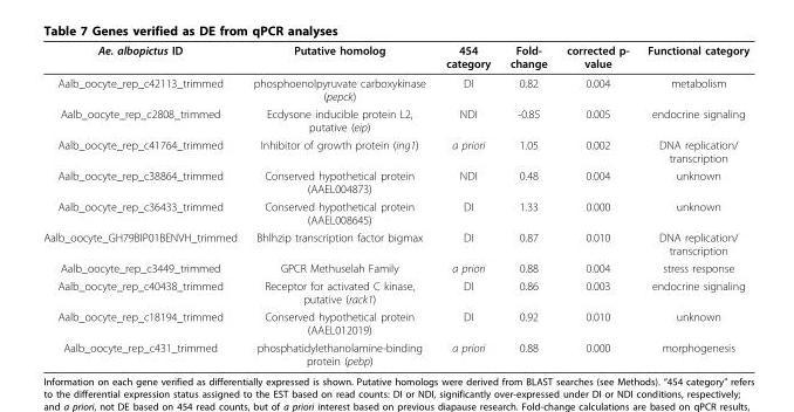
<table><thead><tr><td>Ae. albopictus ID</td><td>Putative homolog</td><td>454 category</td><td>Fold- change</td><td>corrected p- value</td><td>Functional category</td></tr></thead><tbody><tr><td>Aalb_oocyte_rep_c42113_trimmed</td><td>phosphoenolpyruvate carboxykinase (pepck)</td><td>DI</td><td>0.82</td><td>0.004</td><td>metabolism</td></tr><tr><td>Aalb_oocyte_rep_c2808_trimmed</td><td>Ecdysone inducible protein L2, putative (eip)</td><td>NDI</td><td>-0.85</td><td>0.005</td><td>endocrine signaling</td></tr><tr><td>Aalb_oocyte_rep_c41764_trimmed</td><td>Inhibitor of growth protein (ing1)</td><td>a priori</td><td>1.05</td><td>0.002</td><td>DNA replication/ transcription</td></tr><tr><td>Aalb_oocyte_rep_c38864_trimmed</td><td>Conserved hypothetical protein (AAEL004873)</td><td>NDI</td><td>0.48</td><td>0.004</td><td>unknown</td></tr><tr><td>Aalb_oocyte_rep_c36433_trimmed</td><td>Conserved hypothetical protein (AAEL008645)</td><td>DI</td><td>1.33</td><td>0.000</td><td>unknown</td></tr><tr><td>Aalb_oocyte_GH79BIP01BENVH_trimmed</td><td>Bhlhzip transcription factor bigmax</td><td>DI</td><td>0.87</td><td>0.010</td><td>DNA replication/ transcription</td></tr><tr><td>Aalb_oocyte_rep_c3449_trimmed</td><td>GPCR Methuselah Family</td><td>a priori</td><td>0.88</td><td>0.004</td><td>stress response</td></tr><tr><td>Aalb_oocyte_rep_c40438_trimmed</td><td>Receptor for activated C kinase, putative (rack1)</td><td>DI</td><td>0.86</td><td>0.003</td><td>endocrine signaling</td></tr><tr><td>Aalb_oocyte_rep_c18194_trimmed</td><td>Conserved hypothetical protein (AAEL012019)</td><td>DI</td><td>0.92</td><td>0.010</td><td>unknown</td></tr><tr><td>Aalb_oocyte_rep_c431_trimmed</td><td>phosphatidylethanolamine-binding protein (pebp)</td><td>a priori</td><td>0.88</td><td>0.000</td><td>morphogenesis</td></tr></tbody></table>